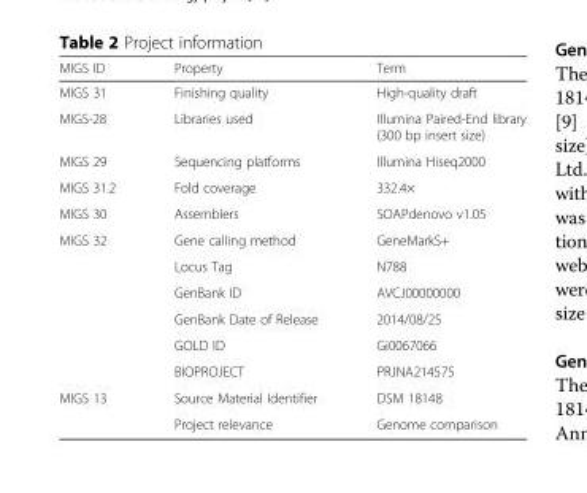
<table><thead><tr><td>MIGS ID</td><td>Property</td><td>Term</td></tr></thead><tbody><tr><td>MIGS 31</td><td>Finishing quality</td><td>High-quality draft</td></tr><tr><td>MIGS-28</td><td>Libraries used</td><td>Illumina Paired-End library (300 bp insert size)</td></tr><tr><td>MIGS 29</td><td>Sequencing platforms</td><td>Illumina Hiseq2000</td></tr><tr><td>MIGS 31.2</td><td>Fold coverage</td><td>332.4×</td></tr><tr><td>MIGS 30</td><td>Assemblers</td><td>SOAPdenovo v1.05</td></tr><tr><td rowspan="6">MIGS 32</td><td>Gene calling method</td><td>GeneMarkS+</td></tr><tr><td>Locus Tag</td><td>N788</td></tr><tr><td>GenBank ID</td><td>AVCJ00000000</td></tr><tr><td>GenBank Date of Release</td><td>2014/08/25</td></tr><tr><td>GOLD ID</td><td>Gi0067066</td></tr><tr><td>BIOPROJECT</td><td>PRJNA214575</td></tr><tr><td rowspan="2">MIGS 13</td><td>Source Material Identifier</td><td>DSM 18148</td></tr><tr><td>Project relevance</td><td>Genome comparison</td></tr></tbody></table>